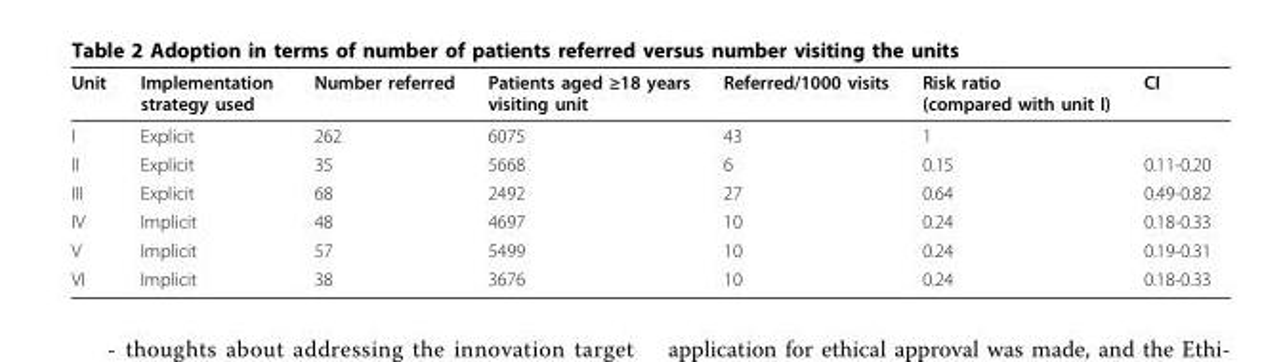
<table><thead><tr><td>Unit</td><td>Implementation strategy used</td><td>Number referred</td><td>Patients aged ≥18 years visiting unit</td><td>Referred/1000 visits</td><td>Risk ratio (compared with unit I)</td><td>CI</td></tr></thead><tbody><tr><td>I</td><td>Explicit</td><td>262</td><td>6075</td><td>43</td><td>1</td><td></td></tr><tr><td>II</td><td>Explicit</td><td>35</td><td>5668</td><td>6</td><td>0.15</td><td>0.11-0.20</td></tr><tr><td>III</td><td>Explicit</td><td>68</td><td>2492</td><td>27</td><td>0.64</td><td>0.49-0.82</td></tr><tr><td>IV</td><td>Implicit</td><td>48</td><td>4697</td><td>10</td><td>0.24</td><td>0.18-0.33</td></tr><tr><td>V</td><td>Implicit</td><td>57</td><td>5499</td><td>10</td><td>0.24</td><td>0.19-0.31</td></tr><tr><td>VI</td><td>Implicit</td><td>38</td><td>3676</td><td>10</td><td>0.24</td><td>0.18-0.33</td></tr></tbody></table>